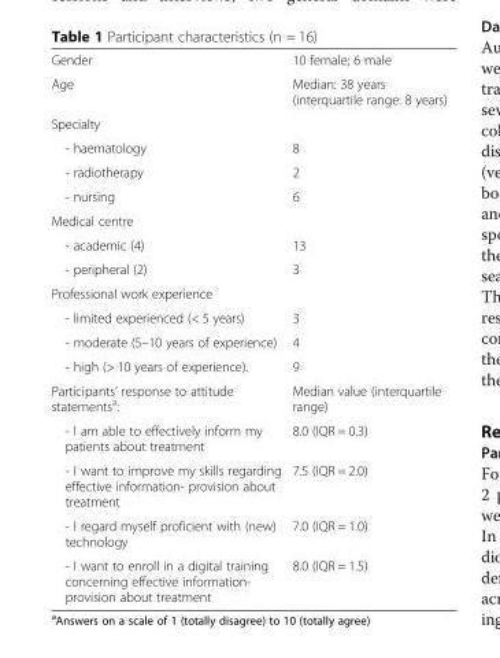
<table><tbody><tr><td>Gender</td><td>10 female; 6 male</td></tr><tr><td>Age</td><td>Median: 38 years (interquartile range: 8 years)</td></tr><tr><td colspan="2">Specialty</td></tr><tr><td>- haematology</td><td>8</td></tr><tr><td>- radiotherapy</td><td>2</td></tr><tr><td>- nursing</td><td>6</td></tr><tr><td colspan="2">Medical centre</td></tr><tr><td>- academic (4)</td><td>13</td></tr><tr><td>- peripheral (2)</td><td>3</td></tr><tr><td colspan="2">Professional work experience</td></tr><tr><td>- limited experienced (&lt; 5 years)</td><td>3</td></tr><tr><td>- moderate (5–10 years of experience)</td><td>4</td></tr><tr><td>- high (&gt; 10 years of experience).</td><td>9</td></tr><tr><td>Participants’ response to attitude statements<sup>a</sup>:</td><td>Median value (interquartile range)</td></tr><tr><td>- I am able to effectively inform my patients about treatment</td><td>8.0 (IQR = 0.3)</td></tr><tr><td>- I want to improve my skills regarding effective information- provision about treatment</td><td>7.5 (IQR = 2.0)</td></tr><tr><td>- I regard myself proficient with (new) technology</td><td>7.0 (IQR = 1.0)</td></tr><tr><td>- I want to enroll in a digital training concerning effective information- provision about treatment</td><td>8.0 (IQR = 1.5)</td></tr></tbody></table>